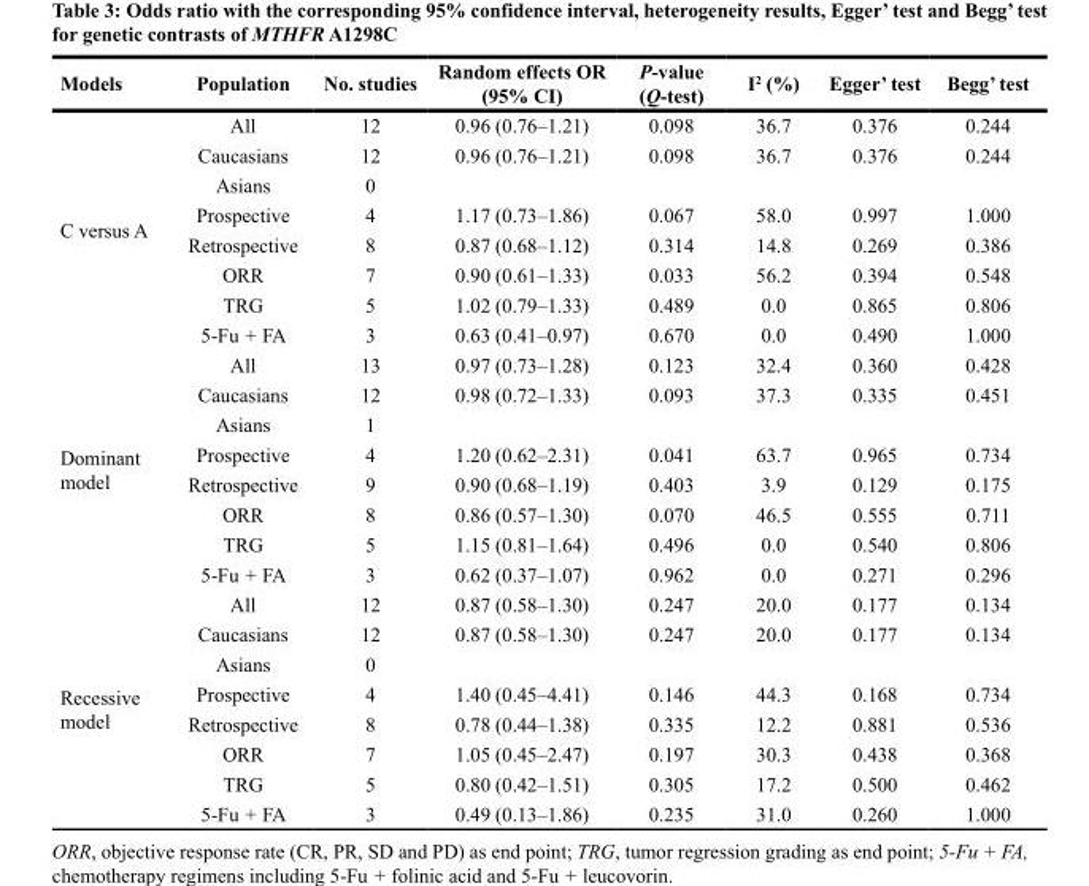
<table><thead><tr><td>Models</td><td>Population</td><td>No. studies</td><td>Random effects OR (95% CI)</td><td>P-value (Q-test)</td><td>I<sup>2</sup> (%)</td><td>Egger’ test</td><td>Begg’ test</td></tr></thead><tbody><tr><td rowspan="8">C versus A</td><td>All</td><td>12</td><td>0.96 (0.76–1.21)</td><td>0.098</td><td>36.7</td><td>0.376</td><td>0.244</td></tr><tr><td>Caucasians</td><td>12</td><td>0.96 (0.76–1.21)</td><td>0.098</td><td>36.7</td><td>0.376</td><td>0.244</td></tr><tr><td>Asians</td><td>0</td><td></td><td></td><td></td><td></td><td></td></tr><tr><td>Prospective</td><td>4</td><td>1.17 (0.73–1.86)</td><td>0.067</td><td>58.0</td><td>0.997</td><td>1.000</td></tr><tr><td>Retrospective</td><td>8</td><td>0.87 (0.68–1.12)</td><td>0.314</td><td>14.8</td><td>0.269</td><td>0.386</td></tr><tr><td>ORR</td><td>7</td><td>0.90 (0.61–1.33)</td><td>0.033</td><td>56.2</td><td>0.394</td><td>0.548</td></tr><tr><td>TRG</td><td>5</td><td>1.02 (0.79–1.33)</td><td>0.489</td><td>0.0</td><td>0.865</td><td>0.806</td></tr><tr><td>5-Fu + FA</td><td>3</td><td>0.63 (0.41–0.97)</td><td>0.670</td><td>0.0</td><td>0.490</td><td>1.000</td></tr><tr><td rowspan="8">Dominant model</td><td>All</td><td>13</td><td>0.97 (0.73–1.28)</td><td>0.123</td><td>32.4</td><td>0.360</td><td>0.428</td></tr><tr><td>Caucasians</td><td>12</td><td>0.98 (0.72–1.33)</td><td>0.093</td><td>37.3</td><td>0.335</td><td>0.451</td></tr><tr><td>Asians</td><td>1</td><td></td><td></td><td></td><td></td><td></td></tr><tr><td>Prospective</td><td>4</td><td>1.20 (0.62–2.31)</td><td>0.041</td><td>63.7</td><td>0.965</td><td>0.734</td></tr><tr><td>Retrospective</td><td>9</td><td>0.90 (0.68–1.19)</td><td>0.403</td><td>3.9</td><td>0.129</td><td>0.175</td></tr><tr><td>ORR</td><td>8</td><td>0.86 (0.57–1.30)</td><td>0.070</td><td>46.5</td><td>0.555</td><td>0.711</td></tr><tr><td>TRG</td><td>5</td><td>1.15 (0.81–1.64)</td><td>0.496</td><td>0.0</td><td>0.540</td><td>0.806</td></tr><tr><td>5-Fu + FA</td><td>3</td><td>0.62 (0.37–1.07)</td><td>0.962</td><td>0.0</td><td>0.271</td><td>0.296</td></tr><tr><td rowspan="8">Recessive model</td><td>All</td><td>12</td><td>0.87 (0.58–1.30)</td><td>0.247</td><td>20.0</td><td>0.177</td><td>0.134</td></tr><tr><td>Caucasians</td><td>12</td><td>0.87 (0.58–1.30)</td><td>0.247</td><td>20.0</td><td>0.177</td><td>0.134</td></tr><tr><td>Asians</td><td>0</td><td></td><td></td><td></td><td></td><td></td></tr><tr><td>Prospective</td><td>4</td><td>1.40 (0.45–4.41)</td><td>0.146</td><td>44.3</td><td>0.168</td><td>0.734</td></tr><tr><td>Retrospective</td><td>8</td><td>0.78 (0.44–1.38)</td><td>0.335</td><td>12.2</td><td>0.881</td><td>0.536</td></tr><tr><td>ORR</td><td>7</td><td>1.05 (0.45–2.47)</td><td>0.197</td><td>30.3</td><td>0.438</td><td>0.368</td></tr><tr><td>TRG</td><td>5</td><td>0.80 (0.42–1.51)</td><td>0.305</td><td>17.2</td><td>0.500</td><td>0.462</td></tr><tr><td>5-Fu + FA</td><td>3</td><td>0.49 (0.13–1.86)</td><td>0.235</td><td>31.0</td><td>0.260</td><td>1.000</td></tr></tbody></table>